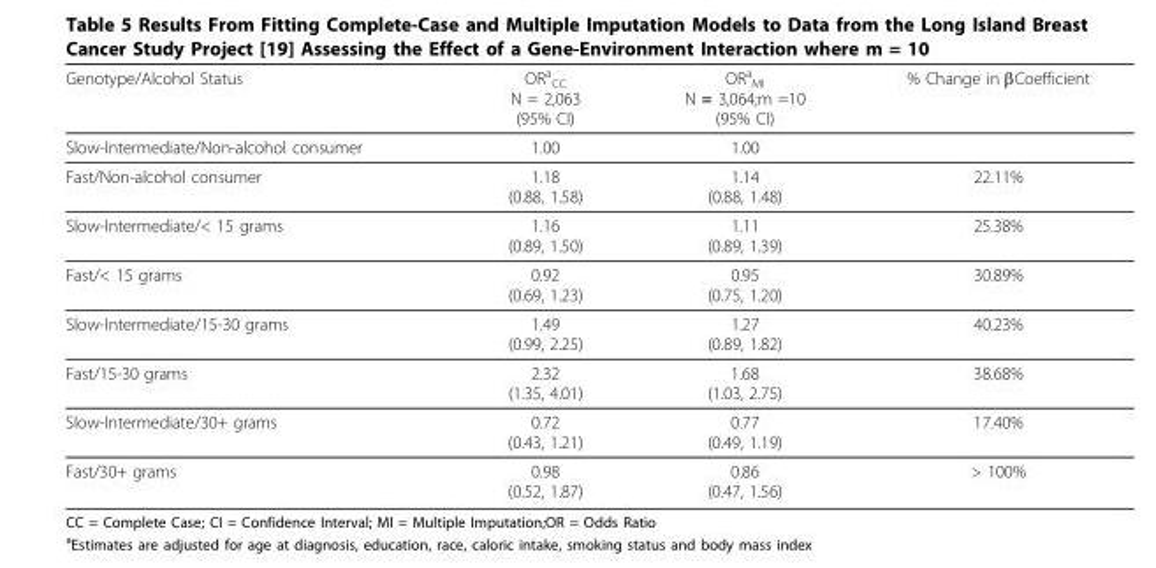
<table><thead><tr><td>Genotype/Alcohol Status</td><td>OR<sup>a</sup> <sub>CC</sub> N = 2,063 (95% CI)</td><td>OR<sup>a</sup> <sub>MI</sub> N = 3,064;m =10 (95% CI)</td><td>% Change in βCoefficient</td></tr></thead><tbody><tr><td>Slow-Intermediate/Non-alcohol consumer</td><td>1.00</td><td>1.00</td><td></td></tr><tr><td>Fast/Non-alcohol consumer</td><td>1.18 (0.88, 1.58)</td><td>1.14 (0.88, 1.48)</td><td>22.11%</td></tr><tr><td>Slow-Intermediate/&lt; 15 grams</td><td>1.16 (0.89, 1.50)</td><td>1.11 (0.89, 1.39)</td><td>25.38%</td></tr><tr><td>Fast/&lt; 15 grams</td><td>0.92 (0.69, 1.23)</td><td>0.95 (0.75, 1.20)</td><td>30.89%</td></tr><tr><td>Slow-Intermediate/15-30 grams</td><td>1.49 (0.99, 2.25)</td><td>1.27 (0.89, 1.82)</td><td>40.23%</td></tr><tr><td>Fast/15-30 grams</td><td>2.32 (1.35, 4.01)</td><td>1.68 (1.03, 2.75)</td><td>38.68%</td></tr><tr><td>Slow-Intermediate/30+ grams</td><td>0.72 (0.43, 1.21)</td><td>0.77 (0.49, 1.19)</td><td>17.40%</td></tr><tr><td>Fast/30+ grams</td><td>0.98 (0.52, 1.87)</td><td>0.86 (0.47, 1.56)</td><td>&gt; 100%</td></tr></tbody></table>